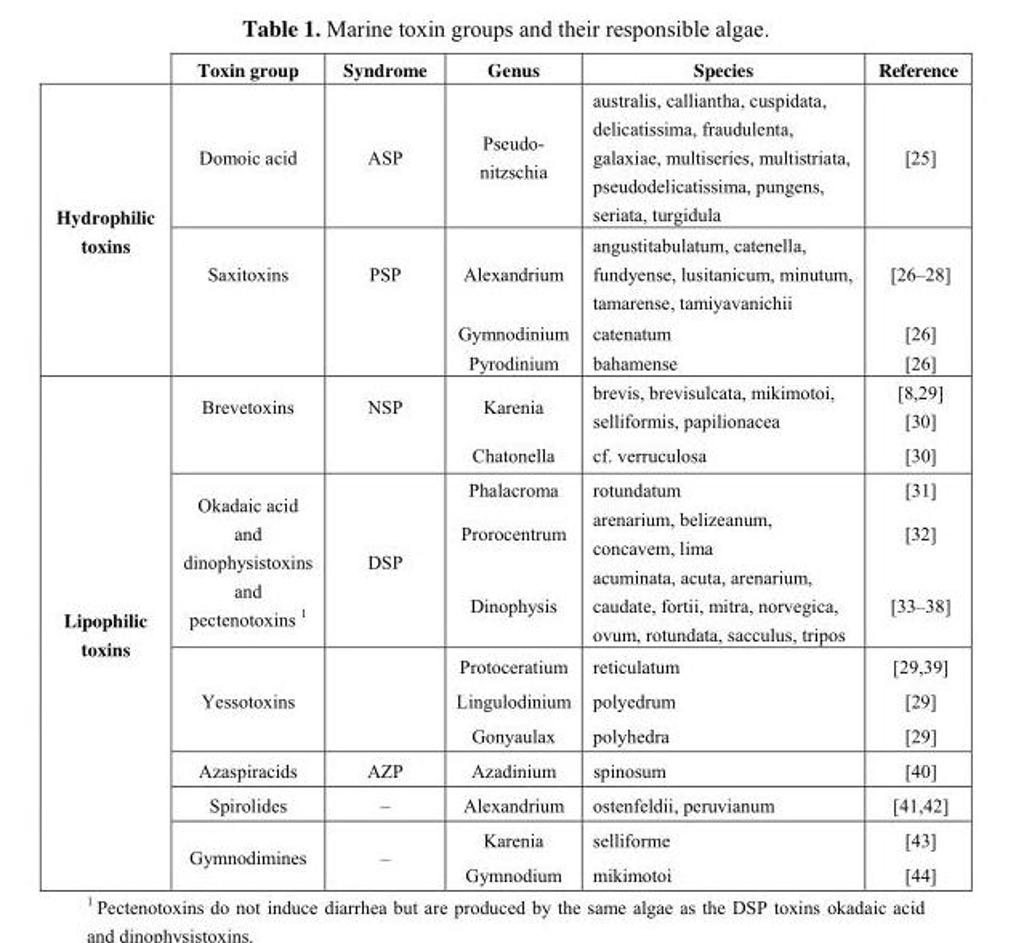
<table><thead><tr><td></td><td>Toxin group</td><td>Syndrome</td><td>Genus</td><td>Species</td><td>Reference</td></tr></thead><tbody><tr><td rowspan="4">Hydrophilic toxins</td><td>Domoic acid</td><td>ASP</td><td>Pseudo- nitzschia</td><td>australis, calliantha, cuspidata, delicatissima, fraudulenta, galaxiae, multiseries, multistriata, pseudodelicatissima, pungens, seriata, turgidula</td><td>[25]</td></tr><tr><td>Saxitoxins</td><td>PSP</td><td>Alexandrium</td><td>angustitabulatum, catenella, fundyense, lusitanicum, minutum, tamarense, tamiyavanichii</td><td>[26–28]</td></tr><tr><td></td><td></td><td>Gymnodinium</td><td>catenatum</td><td>[26]</td></tr><tr><td></td><td></td><td>Pyrodinium</td><td>bahamense</td><td>[26]</td></tr><tr><td rowspan="12">Lipophilic toxins</td><td>Brevetoxins</td><td>NSP</td><td>Karenia</td><td>brevis, brevisulcata, mikimotoi, selliformis, papilionacea</td><td>[8,29] [30]</td></tr><tr><td></td><td></td><td>Chatonella</td><td>cf. verruculosa</td><td>[30]</td></tr><tr><td rowspan="3">Okadaic acid and dinophysistoxins and pectenotoxins <sup>1</sup></td><td rowspan="3">DSP</td><td>Phalacroma</td><td>rotundatum</td><td>[31]</td></tr><tr><td>Prorocentrum</td><td>arenarium, belizeanum, concavem, lima</td><td>[32]</td></tr><tr><td>Dinophysis</td><td>acuminata, acuta, arenarium, caudate, fortii, mitra, norvegica, ovum, rotundata, sacculus, tripos</td><td>[33–38]</td></tr><tr><td rowspan="3">Yessotoxins</td><td></td><td>Protoceratium</td><td>reticulatum</td><td>[29,39]</td></tr><tr><td></td><td>Lingulodinium</td><td>polyedrum</td><td>[29]</td></tr><tr><td></td><td>Gonyaulax</td><td>polyhedra</td><td>[29]</td></tr><tr><td>Azaspiracids</td><td>AZP</td><td>Azadinium</td><td>spinosum</td><td>[40]</td></tr><tr><td>Spirolides</td><td>–</td><td>Alexandrium</td><td>ostenfeldii, peruvianum</td><td>[41,42]</td></tr><tr><td rowspan="2">Gymnodimines</td><td rowspan="2">–</td><td>Karenia</td><td>selliforme</td><td>[43]</td></tr><tr><td>Gymnodium</td><td>mikimotoi</td><td>[44]</td></tr></tbody></table>